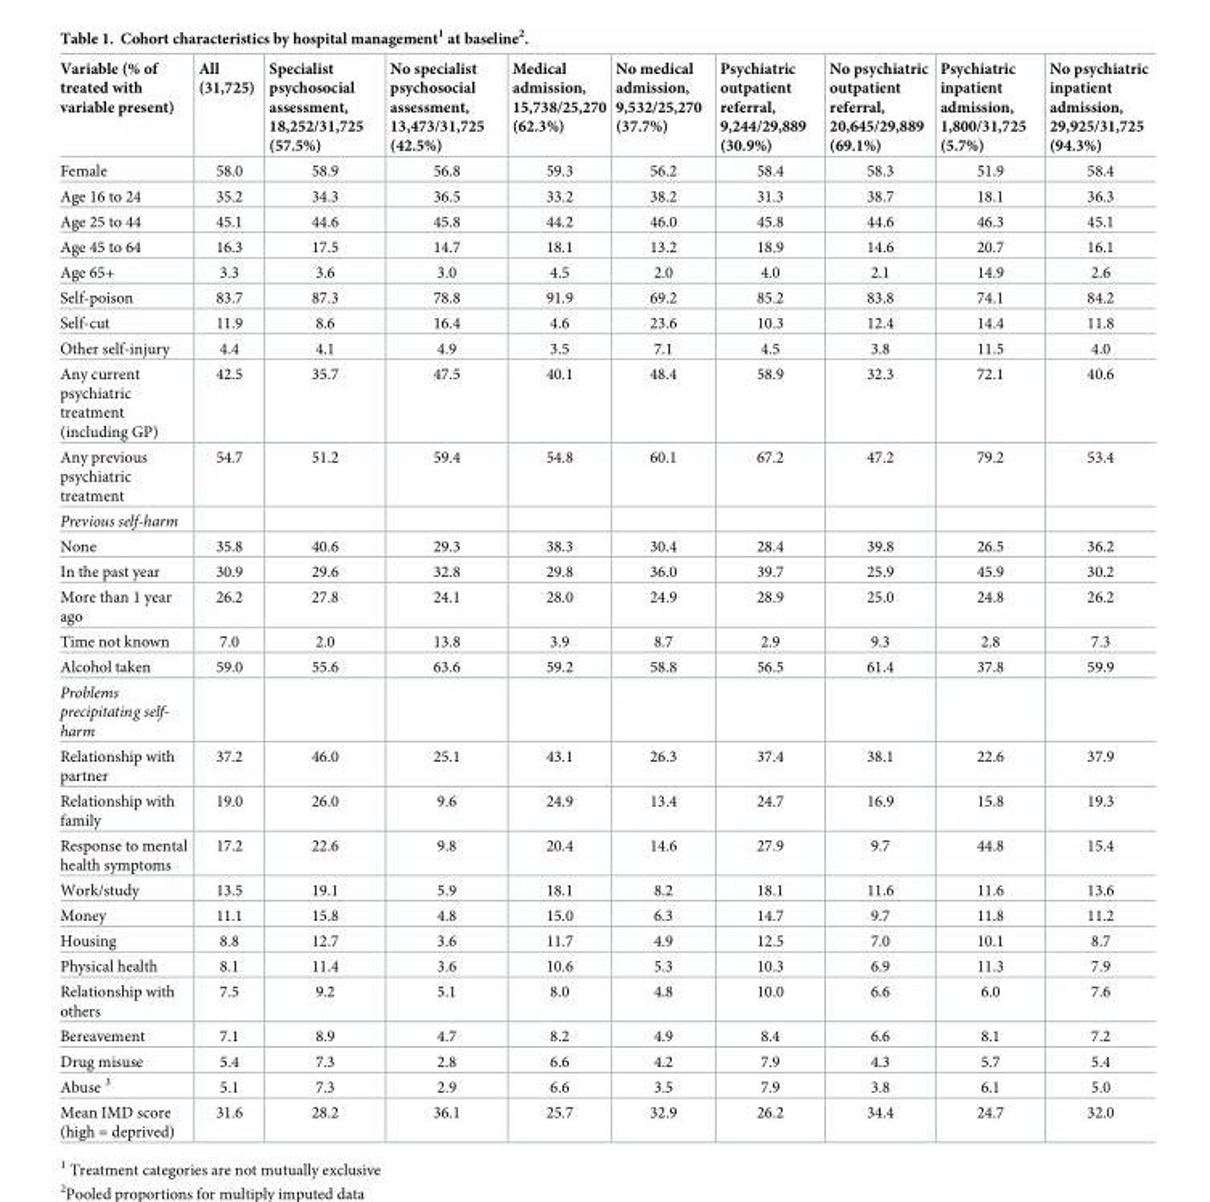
<table><thead><tr><td>Variable (% of treated with variable present)</td><td>All (31,725)</td><td>Specialist psychosocial assessment, 18,252/31,725 (57.5%)</td><td>No specialist psychosocial assessment, 13,473/31,725 (42.5%)</td><td>Medical admission, 15,738/25,270 (62.3%)</td><td>No medical admission, 9,532/25,270 (37.7%)</td><td>Psychiatric outpatient referral, 9,244/29,889 (30.9%)</td><td>No psychiatric outpatient referral, 20,645/29,889 (69.1%)</td><td>Psychiatric inpatient admission, 1,800/31,725 (5.7%)</td><td>No psychiatric inpatient admission, 29,925/31,725 (94.3%)</td></tr></thead><tbody><tr><td>Female</td><td>58.0</td><td>58.9</td><td>56.8</td><td>59.3</td><td>56.2</td><td>58.4</td><td>58.3</td><td>51.9</td><td>58.4</td></tr><tr><td>Age 16 to 24</td><td>35.2</td><td>34.3</td><td>36.5</td><td>33.2</td><td>38.2</td><td>31.3</td><td>38.7</td><td>18.1</td><td>36.3</td></tr><tr><td>Age 25 to 44</td><td>45.1</td><td>44.6</td><td>45.8</td><td>44.2</td><td>46.0</td><td>45.8</td><td>44.6</td><td>46.3</td><td>45.1</td></tr><tr><td>Age 45 to 64</td><td>16.3</td><td>17.5</td><td>14.7</td><td>18.1</td><td>13.2</td><td>18.9</td><td>14.6</td><td>20.7</td><td>16.1</td></tr><tr><td>Age 65+</td><td>3.3</td><td>3.6</td><td>3.0</td><td>4.5</td><td>2.0</td><td>4.0</td><td>2.1</td><td>14.9</td><td>2.6</td></tr><tr><td>Self-poison</td><td>83.7</td><td>87.3</td><td>78.8</td><td>91.9</td><td>69.2</td><td>85.2</td><td>83.8</td><td>74.1</td><td>84.2</td></tr><tr><td>Self-cut</td><td>11.9</td><td>8.6</td><td>16.4</td><td>4.6</td><td>23.6</td><td>10.3</td><td>12.4</td><td>14.4</td><td>11.8</td></tr><tr><td>Other self-injury</td><td>4.4</td><td>4.1</td><td>4.9</td><td>3.5</td><td>7.1</td><td>4.5</td><td>3.8</td><td>11.5</td><td>4.0</td></tr><tr><td>Any current psychiatric treatment (including GP)</td><td>42.5</td><td>35.7</td><td>47.5</td><td>40.1</td><td>48.4</td><td>58.9</td><td>32.3</td><td>72.1</td><td>40.6</td></tr><tr><td>Any previous psychiatric treatment</td><td>54.7</td><td>51.2</td><td>59.4</td><td>54.8</td><td>60.1</td><td>67.2</td><td>47.2</td><td>79.2</td><td>53.4</td></tr><tr><td colspan="10">Previous self-harm</td></tr><tr><td>None</td><td>35.8</td><td>40.6</td><td>29.3</td><td>38.3</td><td>30.4</td><td>28.4</td><td>39.8</td><td>26.5</td><td>36.2</td></tr><tr><td>In the past year</td><td>30.9</td><td>29.6</td><td>32.8</td><td>29.8</td><td>36.0</td><td>39.7</td><td>25.9</td><td>45.9</td><td>30.2</td></tr><tr><td>More than 1 year ago</td><td>26.2</td><td>27.8</td><td>24.1</td><td>28.0</td><td>24.9</td><td>28.9</td><td>25.0</td><td>24.8</td><td>26.2</td></tr><tr><td>Time not known</td><td>7.0</td><td>2.0</td><td>13.8</td><td>3.9</td><td>8.7</td><td>2.9</td><td>9.3</td><td>2.8</td><td>7.3</td></tr><tr><td>Alcohol taken</td><td>59.0</td><td>55.6</td><td>63.6</td><td>59.2</td><td>58.8</td><td>56.5</td><td>61.4</td><td>37.8</td><td>59.9</td></tr><tr><td colspan="10">Problems precipitating self- harm</td></tr><tr><td>Relationship with partner</td><td>37.2</td><td>46.0</td><td>25.1</td><td>43.1</td><td>26.3</td><td>37.4</td><td>38.1</td><td>22.6</td><td>37.9</td></tr><tr><td>Relationship with family</td><td>19.0</td><td>26.0</td><td>9.6</td><td>24.9</td><td>13.4</td><td>24.7</td><td>16.9</td><td>15.8</td><td>19.3</td></tr><tr><td>Response to mental health symptoms</td><td>17.2</td><td>22.6</td><td>9.8</td><td>20.4</td><td>14.6</td><td>27.9</td><td>9.7</td><td>44.8</td><td>15.4</td></tr><tr><td>Work/study</td><td>13.5</td><td>19.1</td><td>5.9</td><td>18.1</td><td>8.2</td><td>18.1</td><td>11.6</td><td>11.6</td><td>13.6</td></tr><tr><td>Money</td><td>11.1</td><td>15.8</td><td>4.8</td><td>15.0</td><td>6.3</td><td>14.7</td><td>9.7</td><td>11.8</td><td>11.2</td></tr><tr><td>Housing</td><td>8.8</td><td>12.7</td><td>3.6</td><td>11.7</td><td>4.9</td><td>12.5</td><td>7.0</td><td>10.1</td><td>8.7</td></tr><tr><td>Physical health</td><td>8.1</td><td>11.4</td><td>3.6</td><td>10.6</td><td>5.3</td><td>10.3</td><td>6.9</td><td>11.3</td><td>7.9</td></tr><tr><td>Relationship with others</td><td>7.5</td><td>9.2</td><td>5.1</td><td>8.0</td><td>4.8</td><td>10.0</td><td>6.6</td><td>6.0</td><td>7.6</td></tr><tr><td>Bereavement</td><td>7.1</td><td>8.9</td><td>4.7</td><td>8.2</td><td>4.9</td><td>8.4</td><td>6.6</td><td>8.1</td><td>7.2</td></tr><tr><td>Drug misuse</td><td>5.4</td><td>7.3</td><td>2.8</td><td>6.6</td><td>4.2</td><td>7.9</td><td>4.3</td><td>5.7</td><td>5.4</td></tr><tr><td>Abuse <sup>3</sup></td><td>5.1</td><td>7.3</td><td>2.9</td><td>6.6</td><td>3.5</td><td>7.9</td><td>3.8</td><td>6.1</td><td>5.0</td></tr><tr><td>Mean IMD score (high = deprived)</td><td>31.6</td><td>28.2</td><td>36.1</td><td>25.7</td><td>32.9</td><td>26.2</td><td>34.4</td><td>24.7</td><td>32.0</td></tr></tbody></table>